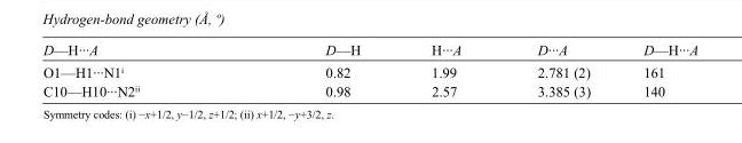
<table><tbody><tr><td>D—H···A</td><td>D—H</td><td>H···A</td><td>D···A</td><td>D—H···A</td></tr><tr><td>O1—H1···N1<sup>i</sup></td><td>0.82</td><td>1.99</td><td>2.781 (2)</td><td>161</td></tr><tr><td>C10—H10···N2<sup>ii</sup></td><td>0.98</td><td>2.57</td><td>3.385 (3)</td><td>140</td></tr></tbody></table>